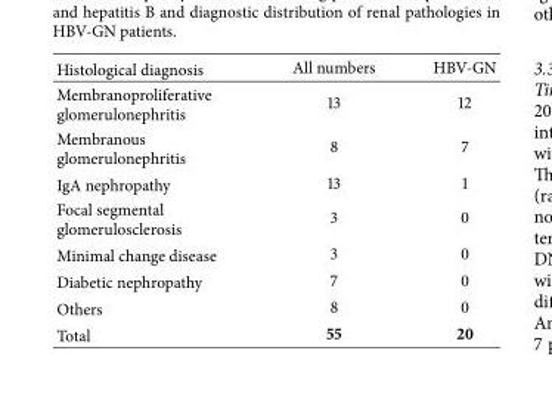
<table><thead><tr><td>Histological diagnosis</td><td>All numbers</td><td>HBV-GN</td></tr></thead><tbody><tr><td>Membranoproliferative glomerulonephritis</td><td>13</td><td>12</td></tr><tr><td>Membranous glomerulonephritis</td><td>8</td><td>7</td></tr><tr><td>IgA nephropathy</td><td>13</td><td>1</td></tr><tr><td>Focal segmental glomerulosclerosis</td><td>3</td><td>0</td></tr><tr><td>Minimal change disease</td><td>3</td><td>0</td></tr><tr><td>Diabetic nephropathy</td><td>7</td><td>0</td></tr><tr><td>Others</td><td>8</td><td>0</td></tr><tr><td>Total</td><td>55</td><td>20</td></tr></tbody></table>